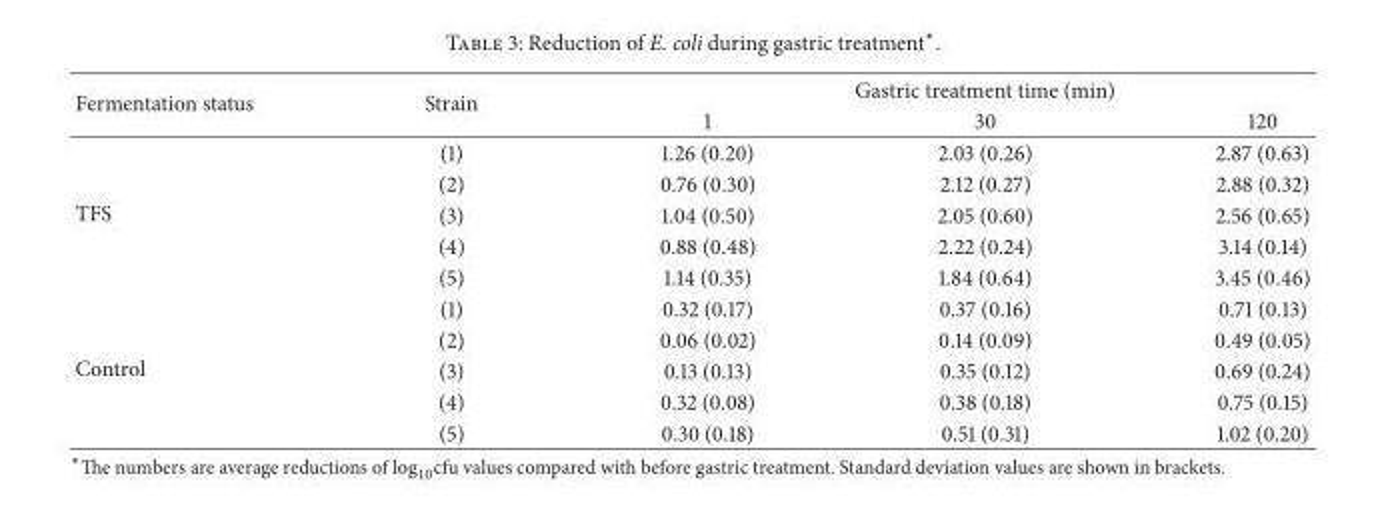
<table><thead><tr><td rowspan="2">Fermentation status</td><td rowspan="2">Strain</td><td colspan="3">Gastric treatment time (min)</td></tr><tr><td>1</td><td>30</td><td>120</td></tr></thead><tbody><tr><td rowspan="5">TFS</td><td>(1)</td><td>1.26 (0.20)</td><td>2.03 (0.26)</td><td>2.87 (0.63)</td></tr><tr><td>(2)</td><td>0.76 (0.30)</td><td>2.12 (0.27)</td><td>2.88 (0.32)</td></tr><tr><td>(3)</td><td>1.04 (0.50)</td><td>2.05 (0.60)</td><td>2.56 (0.65)</td></tr><tr><td>(4)</td><td>0.88 (0.48)</td><td>2.22 (0.24)</td><td>3.14 (0.14)</td></tr><tr><td>(5)</td><td>1.14 (0.35)</td><td>1.84 (0.64)</td><td>3.45 (0.46)</td></tr><tr><td rowspan="5">Control</td><td>(1)</td><td>0.32 (0.17)</td><td>0.37 (0.16)</td><td>0.71 (0.13)</td></tr><tr><td>(2)</td><td>0.06 (0.02)</td><td>0.14 (0.09)</td><td>0.49 (0.05)</td></tr><tr><td>(3)</td><td>0.13 (0.13)</td><td>0.35 (0.12)</td><td>0.69 (0.24)</td></tr><tr><td>(4)</td><td>0.32 (0.08)</td><td>0.38 (0.18)</td><td>0.75 (0.15)</td></tr><tr><td>(5)</td><td>0.30 (0.18)</td><td>0.51 (0.31)</td><td>1.02 (0.20)</td></tr></tbody></table>